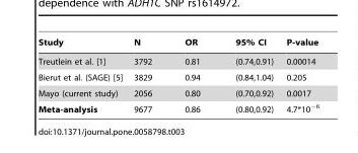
<table><thead><tr><td>Study</td><td>N</td><td>OR</td><td>95% CI</td><td>P-value</td></tr></thead><tbody><tr><td>Treutlein et al. [1]</td><td>3792</td><td>0.81</td><td>(0.74,0.91)</td><td>0.00014</td></tr><tr><td>Bierut et al. (SAGE) [5]</td><td>3829</td><td>0.94</td><td>(0.84,1.04)</td><td>0.205</td></tr><tr><td>Mayo (current study)</td><td>2056</td><td>0.80</td><td>(0.70,0.92)</td><td>0.0017</td></tr><tr><td>Meta-analysis</td><td>9677</td><td>0.86</td><td>(0.80,0.92)</td><td>4.7*10<sup>−6</sup></td></tr></tbody></table>